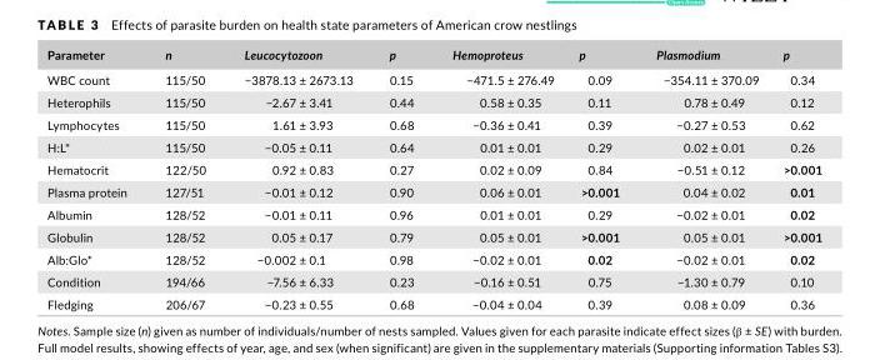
<table><thead><tr><td>Parameter</td><td>n</td><td>Leucocytozoon</td><td>p</td><td>Hemoproteus</td><td>p</td><td>Plasmodium</td><td>p</td></tr></thead><tbody><tr><td>WBC count</td><td>115/50</td><td>−3878.13 ± 2673.13</td><td>0.15</td><td>−471.5 ± 276.49</td><td>0.09</td><td>−354.11 ± 370.09</td><td>0.34</td></tr><tr><td>Heterophils</td><td>115/50</td><td>−2.67 ± 3.41</td><td>0.44</td><td>0.58 ± 0.35</td><td>0.11</td><td>0.78 ± 0.49</td><td>0.12</td></tr><tr><td>Lymphocytes</td><td>115/50</td><td>1.61 ± 3.93</td><td>0.68</td><td>−0.36 ± 0.41</td><td>0.39</td><td>−0.27 ± 0.53</td><td>0.62</td></tr><tr><td>H:L*</td><td>115/50</td><td>−0.05 ± 0.11</td><td>0.64</td><td>0.01 ± 0.01</td><td>0.29</td><td>0.02 ± 0.01</td><td>0.26</td></tr><tr><td>Hematocrit</td><td>122/50</td><td>0.92 ± 0.83</td><td>0.27</td><td>0.02 ± 0.09</td><td>0.84</td><td>−0.51 ± 0.12</td><td>&gt;0.001</td></tr><tr><td>Plasma protein</td><td>127/51</td><td>−0.01 ± 0.12</td><td>0.90</td><td>0.06 ± 0.01</td><td>&gt;0.001</td><td>0.04 ± 0.02</td><td>0.01</td></tr><tr><td>Albumin</td><td>128/52</td><td>−0.01 ± 0.11</td><td>0.96</td><td>0.01 ± 0.01</td><td>0.29</td><td>−0.02 ± 0.01</td><td>0.02</td></tr><tr><td>Globulin</td><td>128/52</td><td>0.05 ± 0.17</td><td>0.79</td><td>0.05 ± 0.01</td><td>&gt;0.001</td><td>0.05 ± 0.01</td><td>&gt;0.001</td></tr><tr><td>Alb:Glo*</td><td>128/52</td><td>−0.002 ± 0.1</td><td>0.98</td><td>−0.02 ± 0.01</td><td>0.02</td><td>−0.02 ± 0.01</td><td>0.02</td></tr><tr><td>Condition</td><td>194/66</td><td>−7.56 ± 6.33</td><td>0.23</td><td>−0.16 ± 0.51</td><td>0.75</td><td>−1.30 ± 0.79</td><td>0.10</td></tr><tr><td>Fledging</td><td>206/67</td><td>−0.23 ± 0.55</td><td>0.68</td><td>−0.04 ± 0.04</td><td>0.39</td><td>0.08 ± 0.09</td><td>0.36</td></tr></tbody></table>